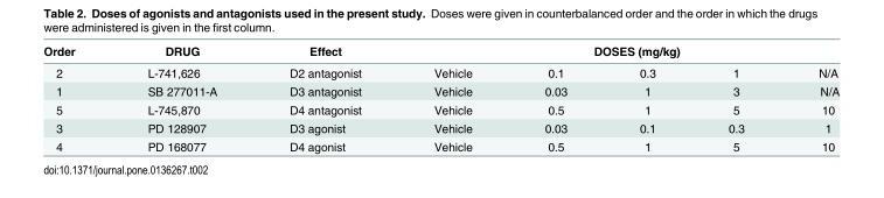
<table><thead><tr><td rowspan="2">Order 2</td><td rowspan="2">DRUG L-741,626</td><td rowspan="2">Effect D2 antagonist</td><td colspan="5">DOSES (mg/kg)</td></tr><tr><td>Vehicle</td><td>0.1</td><td>0.3</td><td>1</td><td>N/A</td></tr></thead><tbody><tr><td>1</td><td>SB 277011-A</td><td>D3 antagonist</td><td>Vehicle</td><td>0.03</td><td>1</td><td>3</td><td>N/A</td></tr><tr><td>5</td><td>L-745,870</td><td>D4 antagonist</td><td>Vehicle</td><td>0.5</td><td>1</td><td>5</td><td>10</td></tr><tr><td>3</td><td>PD 128907</td><td>D3 agonist</td><td>Vehicle</td><td>0.03</td><td>0.1</td><td>0.3</td><td>1</td></tr><tr><td>4</td><td>PD 168077</td><td>D4 agonist</td><td>Vehicle</td><td>0.5</td><td>1</td><td>5</td><td>10</td></tr></tbody></table>